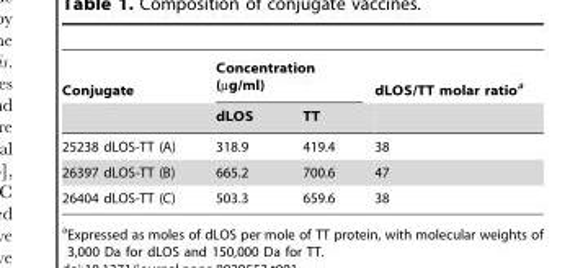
<table><thead><tr><td rowspan="2">Conjugate</td><td colspan="2">Concentration (µg/ml)</td><td rowspan="2">dLOS/TT molar ratio<sup>a</sup></td></tr><tr><td>dLOS</td><td>TT</td></tr></thead><tbody><tr><td>25238 dLOS-TT (A)</td><td>318.9</td><td>419.4</td><td>38</td></tr><tr><td>26397 dLOS-TT (B)</td><td>665.2</td><td>700.6</td><td>47</td></tr><tr><td>26404 dLOS-TT (C)</td><td>503.3</td><td>659.6</td><td>38</td></tr></tbody></table>